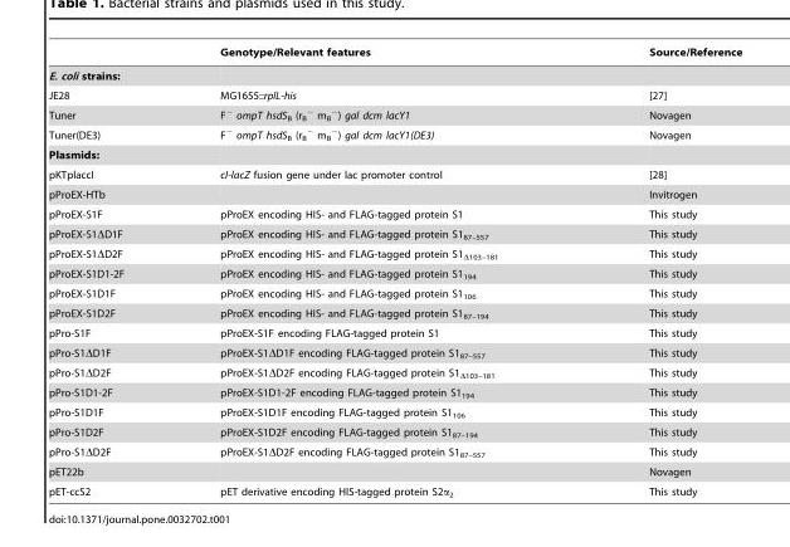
<table><thead><tr><td></td><td>Genotype/Relevant features</td><td>Source/Reference</td></tr></thead><tbody><tr><td colspan="3">E. coli strains:</td></tr><tr><td>JE28</td><td>MG1655::rplL-his</td><td>[27]</td></tr><tr><td>Tuner</td><td>F<sup>−</sup> ompT hsdS<sub>B</sub> (r<sub>B</sub> <sup>−</sup> m<sub>B</sub> <sup>−</sup>) gal dcm lacY1</td><td>Novagen</td></tr><tr><td>Tuner(DE3)</td><td>F<sup>−</sup> ompT hsdS<sub>B</sub> (r<sub>B</sub> <sup>−</sup> m<sub>B</sub> <sup>−</sup>) gal dcm lacY1(DE3)</td><td>Novagen</td></tr><tr><td colspan="3">Plasmids:</td></tr><tr><td>pKTplaccI</td><td>cI-lacZ fusion gene under lac promoter control</td><td>[28]</td></tr><tr><td>pProEX-HTb</td><td></td><td>Invitrogen</td></tr><tr><td>pProEX-S1F</td><td>pProEX encoding HIS- and FLAG-tagged protein S1</td><td>This study</td></tr><tr><td>pProEX-S1ΔD1F</td><td>pProEX encoding HIS- and FLAG-tagged protein S1<sub>87–557</sub></td><td>This study</td></tr><tr><td>pProEX-S1ΔD2F</td><td>pProEX encoding HIS- and FLAG-tagged protein S1<sub>Δ103–181</sub></td><td>This study</td></tr><tr><td>pProEX-S1D1-2F</td><td>pProEX encoding HIS- and FLAG-tagged protein S1<sub>194</sub></td><td>This study</td></tr><tr><td>pProEX-S1D1F</td><td>pProEX encoding HIS- and FLAG-tagged protein S1<sub>106</sub></td><td>This study</td></tr><tr><td>pProEX-S1D2F</td><td>pProEX encoding HIS- and FLAG-tagged protein S1<sub>87–194</sub></td><td>This study</td></tr><tr><td>pPro-S1F</td><td>pProEX-S1F encoding FLAG-tagged protein S1</td><td>This study</td></tr><tr><td>pPro-S1ΔD1F</td><td>pProEX-S1ΔD1F encoding FLAG-tagged protein S1<sub>87–557</sub></td><td>This study</td></tr><tr><td>pPro-S1ΔD2F</td><td>pProEX-S1ΔD2F encoding FLAG-tagged protein S1<sub>Δ103–181</sub></td><td>This study</td></tr><tr><td>pPro-S1D1-2F</td><td>pProEX-S1D1-2F encoding FLAG-tagged protein S1<sub>194</sub></td><td>This study</td></tr><tr><td>pPro-S1D1F</td><td>pProEX-S1D1F encoding FLAG-tagged protein S1<sub>106</sub></td><td>This study</td></tr><tr><td>pPro-S1D2F</td><td>pProEX-S1D2F encoding FLAG-tagged protein S1<sub>87–194</sub></td><td>This study</td></tr><tr><td>pPro-S1ΔD2F</td><td>pProEX-S1ΔD2F encoding FLAG-tagged protein S1<sub>87–557</sub></td><td>This study</td></tr><tr><td>pET22b</td><td></td><td>Novagen</td></tr><tr><td>pET-ccS2</td><td>pET derivative encoding HIS-tagged protein S2α<sub>2</sub></td><td>This study</td></tr></tbody></table>